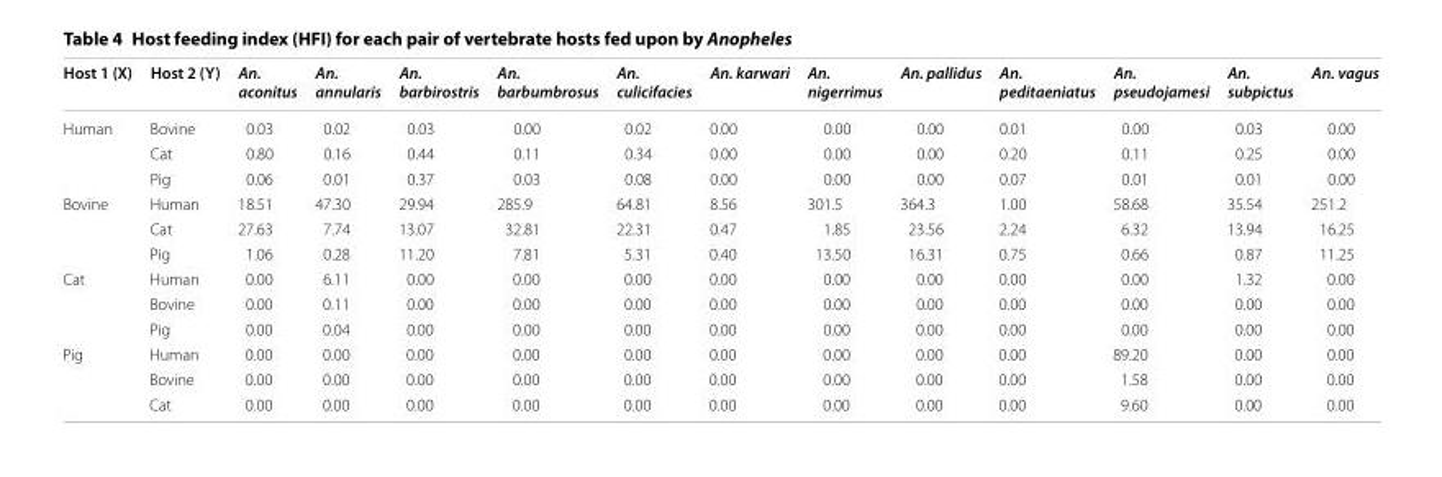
<table><thead><tr><td>Host 1 (X)</td><td>Host 2 (Y)</td><td>An. aconitus</td><td>An. annularis</td><td>An. barbirostris</td><td>An. barbumbrosus</td><td>An. culicifacies</td><td>An. karwari</td><td>An. nigerrimus</td><td>An. pallidus</td><td>An. peditaeniatus</td><td>An. pseudojamesi</td><td>An. subpictus</td><td>An. vagus</td></tr></thead><tbody><tr><td rowspan="3">Human</td><td>Bovine</td><td>0.03</td><td>0.02</td><td>0.03</td><td>0.00</td><td>0.02</td><td>0.00</td><td>0.00</td><td>0.00</td><td>0.01</td><td>0.00</td><td>0.03</td><td>0.00</td></tr><tr><td>Cat</td><td>0.80</td><td>0.16</td><td>0.44</td><td>0.11</td><td>0.34</td><td>0.00</td><td>0.00</td><td>0.00</td><td>0.20</td><td>0.11</td><td>0.25</td><td>0.00</td></tr><tr><td>Pig</td><td>0.06</td><td>0.01</td><td>0.37</td><td>0.03</td><td>0.08</td><td>0.00</td><td>0.00</td><td>0.00</td><td>0.07</td><td>0.01</td><td>0.01</td><td>0.00</td></tr><tr><td rowspan="3">Bovine</td><td>Human</td><td>18.51</td><td>47.30</td><td>29.94</td><td>285.9</td><td>64.81</td><td>8.56</td><td>301.5</td><td>364.3</td><td>1.00</td><td>58.68</td><td>35.54</td><td>251.2</td></tr><tr><td>Cat</td><td>27.63</td><td>7.74</td><td>13.07</td><td>32.81</td><td>22.31</td><td>0.47</td><td>1.85</td><td>23.56</td><td>2.24</td><td>6.32</td><td>13.94</td><td>16.25</td></tr><tr><td>Pig</td><td>1.06</td><td>0.28</td><td>11.20</td><td>7.81</td><td>5.31</td><td>0.40</td><td>13.50</td><td>16.31</td><td>0.75</td><td>0.66</td><td>0.87</td><td>11.25</td></tr><tr><td rowspan="3">Cat</td><td>Human</td><td>0.00</td><td>6.11</td><td>0.00</td><td>0.00</td><td>0.00</td><td>0.00</td><td>0.00</td><td>0.00</td><td>0.00</td><td>0.00</td><td>1.32</td><td>0.00</td></tr><tr><td>Bovine</td><td>0.00</td><td>0.11</td><td>0.00</td><td>0.00</td><td>0.00</td><td>0.00</td><td>0.00</td><td>0.00</td><td>0.00</td><td>0.00</td><td>0.00</td><td>0.00</td></tr><tr><td>Pig</td><td>0.00</td><td>0.04</td><td>0.00</td><td>0.00</td><td>0.00</td><td>0.00</td><td>0.00</td><td>0.00</td><td>0.00</td><td>0.00</td><td>0.00</td><td>0.00</td></tr><tr><td rowspan="3">Pig</td><td>Human</td><td>0.00</td><td>0.00</td><td>0.00</td><td>0.00</td><td>0.00</td><td>0.00</td><td>0.00</td><td>0.00</td><td>0.00</td><td>89.20</td><td>0.00</td><td>0.00</td></tr><tr><td>Bovine</td><td>0.00</td><td>0.00</td><td>0.00</td><td>0.00</td><td>0.00</td><td>0.00</td><td>0.00</td><td>0.00</td><td>0.00</td><td>1.58</td><td>0.00</td><td>0.00</td></tr><tr><td>Cat</td><td>0.00</td><td>0.00</td><td>0.00</td><td>0.00</td><td>0.00</td><td>0.00</td><td>0.00</td><td>0.00</td><td>0.00</td><td>9.60</td><td>0.00</td><td>0.00</td></tr></tbody></table>